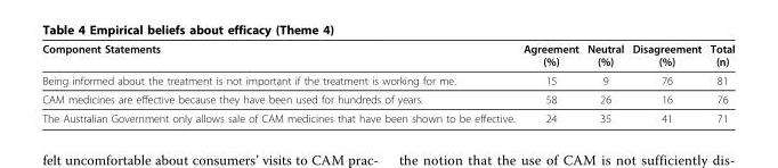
<table><thead><tr><td>Component Statements</td><td>Agreement (%)</td><td>Neutral (%)</td><td>Disagreement (%)</td><td>Total (n)</td></tr></thead><tbody><tr><td>Being informed about the treatment is not important if the treatment is working for me.</td><td>15</td><td>9</td><td>76</td><td>81</td></tr><tr><td>CAM medicines are effective because they have been used for hundreds of years.</td><td>58</td><td>26</td><td>16</td><td>76</td></tr><tr><td>The Australian Government only allows sale of CAM medicines that have been shown to be effective.</td><td>24</td><td>35</td><td>41</td><td>71</td></tr></tbody></table>